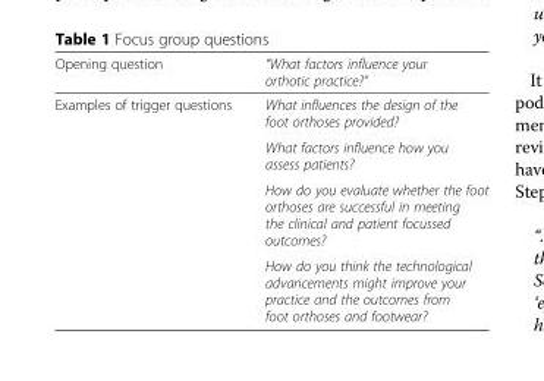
<table><thead><tr><td>Opening question</td><td>“What factors influence your orthotic practice?”</td></tr></thead><tbody><tr><td rowspan="4">Examples of trigger questions</td><td>What influences the design of the foot orthoses provided?</td></tr><tr><td>What factors influence how you assess patients?</td></tr><tr><td>How do you evaluate whether the foot orthoses are successful in meeting the clinical and patient focussed outcomes?</td></tr><tr><td>How do you think the technological advancements might improve your practice and the outcomes from foot orthoses and footwear?</td></tr></tbody></table>